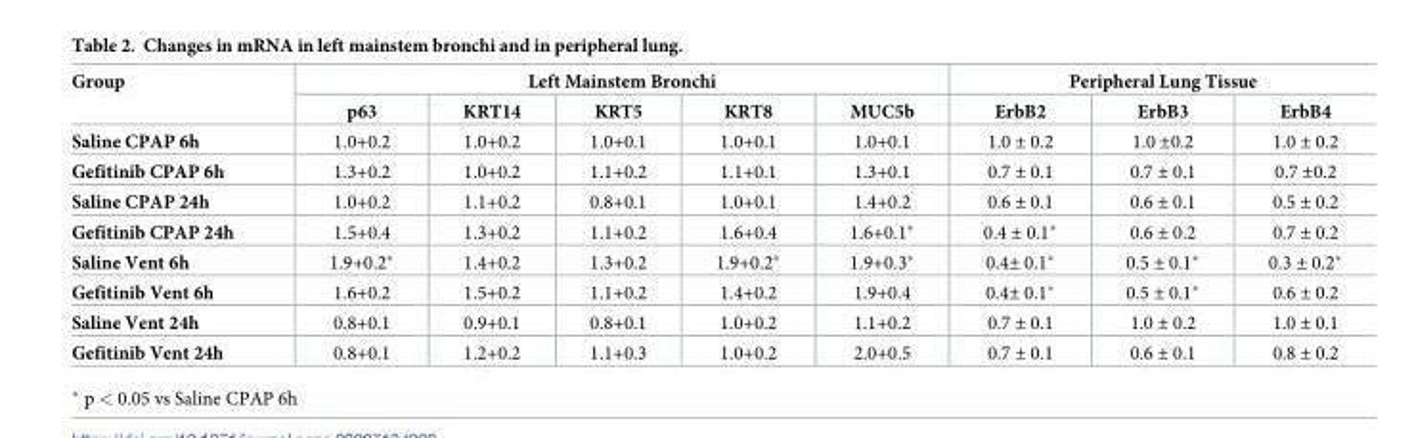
<table><thead><tr><td rowspan="2">Group</td><td colspan="5">Left Mainstem Bronchi</td><td colspan="3">Peripheral Lung Tissue</td></tr><tr><td>p63</td><td>KRT14</td><td>KRT5</td><td>KRT8</td><td>MUC5b</td><td>ErbB2</td><td>ErbB3</td><td>ErbB4</td></tr></thead><tbody><tr><td>Saline CPAP 6h</td><td>1.0+0.2</td><td>1.0+0.2</td><td>1.0+0.1</td><td>1.0+0.1</td><td>1.0+0.1</td><td>1.0 ± 0.2</td><td>1.0 ±0.2</td><td>1.0 ± 0.2</td></tr><tr><td>Gefitinib CPAP 6h</td><td>1.3+0.2</td><td>1.0+0.2</td><td>1.1+0.2</td><td>1.1+0.1</td><td>1.3+0.1</td><td>0.7 ± 0.1</td><td>0.7 ± 0.1</td><td>0.7 ±0.2</td></tr><tr><td>Saline CPAP 24h</td><td>1.0+0.2</td><td>1.1+0.2</td><td>0.8+0.1</td><td>1.0+0.1</td><td>1.4+0.2</td><td>0.6 ± 0.1</td><td>0.6 ± 0.1</td><td>0.5 ± 0.2</td></tr><tr><td>Gefitinib CPAP 24h</td><td>1.5+0.4</td><td>1.3+0.2</td><td>1.1+0.2</td><td>1.6+0.4</td><td>1.6+0.1*</td><td>0.4 ± 0.1*</td><td>0.6 ± 0.2</td><td>0.7 ± 0.2</td></tr><tr><td>Saline Vent 6h</td><td>1.9+0.2*</td><td>1.4+0.2</td><td>1.3+0.2</td><td>1.9+0.2*</td><td>1.9+0.3*</td><td>0.4± 0.1*</td><td>0.5 ± 0.1*</td><td>0.3 ± 0.2*</td></tr><tr><td>Gefitinib Vent 6h</td><td>1.6+0.2</td><td>1.5+0.2</td><td>1.1+0.2</td><td>1.4+0.2</td><td>1.9+0.4</td><td>0.4± 0.1*</td><td>0.5 ± 0.1*</td><td>0.6 ± 0.2</td></tr><tr><td>Saline Vent 24h</td><td>0.8+0.1</td><td>0.9+0.1</td><td>0.8+0.1</td><td>1.0+0.2</td><td>1.1+0.2</td><td>0.7 ± 0.1</td><td>1.0 ± 0.2</td><td>1.0 ± 0.1</td></tr><tr><td>Gefitinib Vent 24h</td><td>0.8+0.1</td><td>1.2+0.2</td><td>1.1+0.3</td><td>1.0+0.2</td><td>2.0+0.5</td><td>0.7 ± 0.1</td><td>0.6 ± 0.1</td><td>0.8 ± 0.2</td></tr></tbody></table>